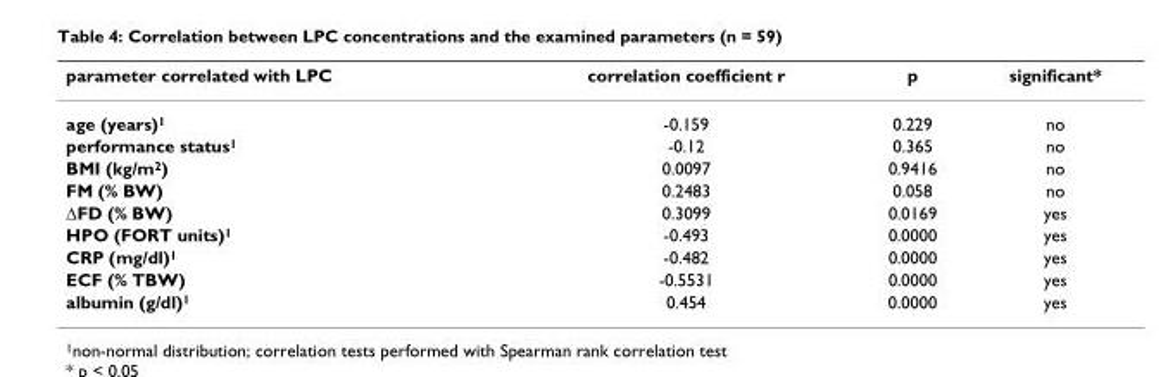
<table><thead><tr><td>parameter correlated with LPC</td><td>correlation coefficient r</td><td>p</td><td>significant*</td></tr></thead><tbody><tr><td>age (years)<sup>1</sup></td><td>-0.159</td><td>0.229</td><td>no</td></tr><tr><td>performance status<sup>1</sup></td><td>-0.12</td><td>0.365</td><td>no</td></tr><tr><td>BMI (kg/m<sup>2</sup>)</td><td>0.0097</td><td>0.9416</td><td>no</td></tr><tr><td>FM (% BW)</td><td>0.2483</td><td>0.058</td><td>no</td></tr><tr><td>ΔFD (% BW)</td><td>0.3099</td><td>0.0169</td><td>yes</td></tr><tr><td>HPO (FORT units)<sup>1</sup></td><td>-0.493</td><td>0.0000</td><td>yes</td></tr><tr><td>CRP (mg/dl)<sup>1</sup></td><td>-0.482</td><td>0.0000</td><td>yes</td></tr><tr><td>ECF (% TBW)</td><td>-0.5531</td><td>0.0000</td><td>yes</td></tr><tr><td>albumin (g/dl)<sup>1</sup></td><td>0.454</td><td>0.0000</td><td>yes</td></tr></tbody></table>